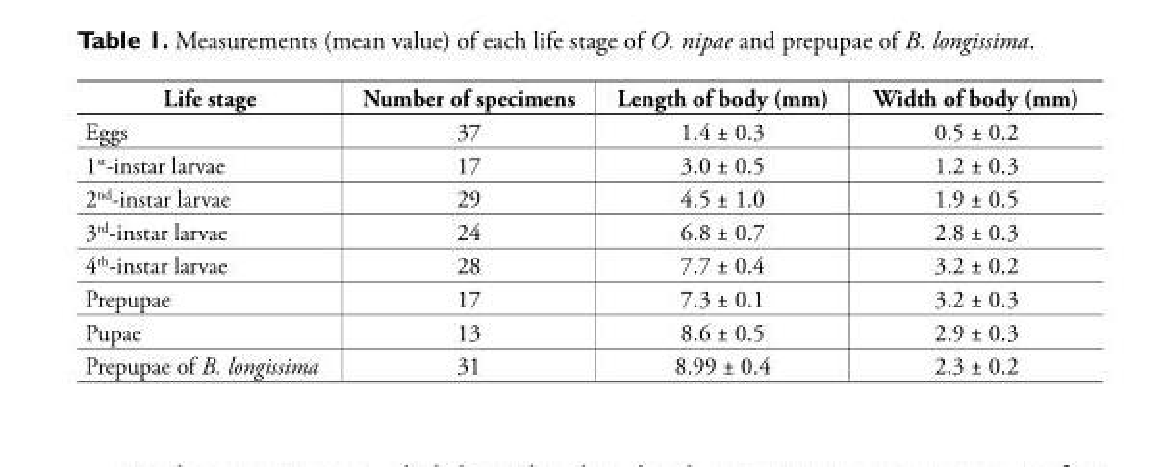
<table><thead><tr><td>Life stage</td><td>Number of specimens</td><td>Length of body (mm)</td><td>Width of body (mm)</td></tr></thead><tbody><tr><td>Eggs</td><td>37</td><td>1.4 ± 0.3</td><td>0.5 ± 0.2</td></tr><tr><td>1<sup>st</sup>-instar larvae</td><td>17</td><td>3.0 ± 0.5</td><td>1.2 ± 0.3</td></tr><tr><td>2<sup>nd</sup>-instar larvae</td><td>29</td><td>4.5 ± 1.0</td><td>1.9 ± 0.5</td></tr><tr><td>3<sup>rd</sup>-instar larvae</td><td>24</td><td>6.8 ± 0.7</td><td>2.8 ± 0.3</td></tr><tr><td>4<sup>th</sup>-instar larvae</td><td>28</td><td>7.7 ± 0.4</td><td>3.2 ± 0.2</td></tr><tr><td>Prepupae</td><td>17</td><td>7.3 ± 0.1</td><td>3.2 ± 0.3</td></tr><tr><td>Pupae</td><td>13</td><td>8.6 ± 0.5</td><td>2.9 ± 0.3</td></tr><tr><td>Prepupae of B. longissima</td><td>31</td><td>8.99 ± 0.4</td><td>2.3 ± 0.2</td></tr></tbody></table>